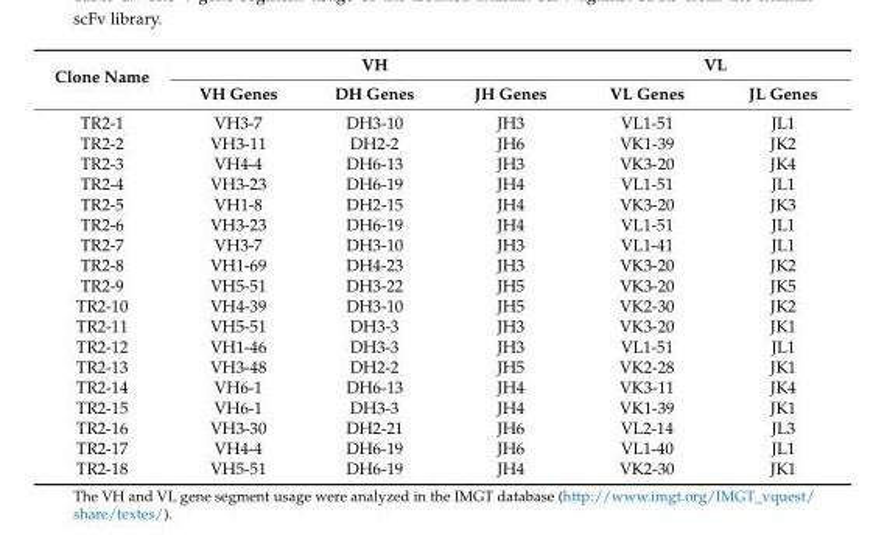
<table><thead><tr><td rowspan="2">Clone Name</td><td colspan="3">VH</td><td colspan="2">VL</td></tr><tr><td>VH Genes</td><td>DH Genes</td><td>JH Genes</td><td>VL Genes</td><td>JL Genes</td></tr></thead><tbody><tr><td>TR2-1</td><td>VH3-7</td><td>DH3-10</td><td>JH3</td><td>VL1-51</td><td>JL1</td></tr><tr><td>TR2-2</td><td>VH3-11</td><td>DH2-2</td><td>JH6</td><td>VK1-39</td><td>JK2</td></tr><tr><td>TR2-3</td><td>VH4-4</td><td>DH6-13</td><td>JH3</td><td>VK3-20</td><td>JK4</td></tr><tr><td>TR2-4</td><td>VH3-23</td><td>DH6-19</td><td>JH4</td><td>VL1-51</td><td>JL1</td></tr><tr><td>TR2-5</td><td>VH1-8</td><td>DH2-15</td><td>JH4</td><td>VK3-20</td><td>JK3</td></tr><tr><td>TR2-6</td><td>VH3-23</td><td>DH6-19</td><td>JH4</td><td>VL1-51</td><td>JL1</td></tr><tr><td>TR2-7</td><td>VH3-7</td><td>DH3-10</td><td>JH3</td><td>VL1-41</td><td>JL1</td></tr><tr><td>TR2-8</td><td>VH1-69</td><td>DH4-23</td><td>JH3</td><td>VK3-20</td><td>JK2</td></tr><tr><td>TR2-9</td><td>VH5-51</td><td>DH3-22</td><td>JH5</td><td>VK3-20</td><td>JK5</td></tr><tr><td>TR2-10</td><td>VH4-39</td><td>DH3-10</td><td>JH5</td><td>VK2-30</td><td>JK2</td></tr><tr><td>TR2-11</td><td>VH5-51</td><td>DH3-3</td><td>JH3</td><td>VK3-20</td><td>JK1</td></tr><tr><td>TR2-12</td><td>VH1-46</td><td>DH3-3</td><td>JH3</td><td>VL1-51</td><td>JL1</td></tr><tr><td>TR2-13</td><td>VH3-48</td><td>DH2-2</td><td>JH5</td><td>VK2-28</td><td>JK1</td></tr><tr><td>TR2-14</td><td>VH6-1</td><td>DH6-13</td><td>JH4</td><td>VK3-11</td><td>JK4</td></tr><tr><td>TR2-15</td><td>VH6-1</td><td>DH3-3</td><td>JH4</td><td>VK1-39</td><td>JK1</td></tr><tr><td>TR2-16</td><td>VH3-30</td><td>DH2-21</td><td>JH6</td><td>VL2-14</td><td>JL3</td></tr><tr><td>TR2-17</td><td>VH4-4</td><td>DH6-19</td><td>JH6</td><td>VL1-40</td><td>JL1</td></tr><tr><td>TR2-18</td><td>VH5-51</td><td>DH6-19</td><td>JH4</td><td>VK2-30</td><td>JK1</td></tr></tbody></table>